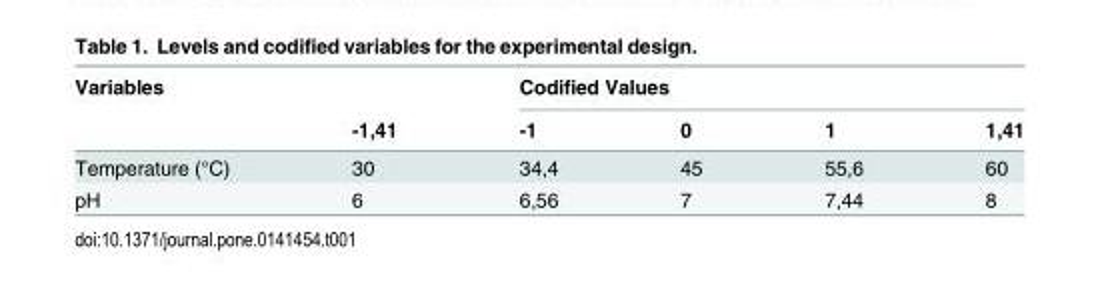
<table><thead><tr><td rowspan="2">Variables</td><td rowspan="2">-1,41</td><td colspan="4">Codified Values</td></tr><tr><td>-1</td><td>0</td><td>1</td><td>1,41</td></tr></thead><tbody><tr><td>Temperature (°C)</td><td>30</td><td>34,4</td><td>45</td><td>55,6</td><td>60</td></tr><tr><td>pH</td><td>6</td><td>6,56</td><td>7</td><td>7,44</td><td>8</td></tr></tbody></table>